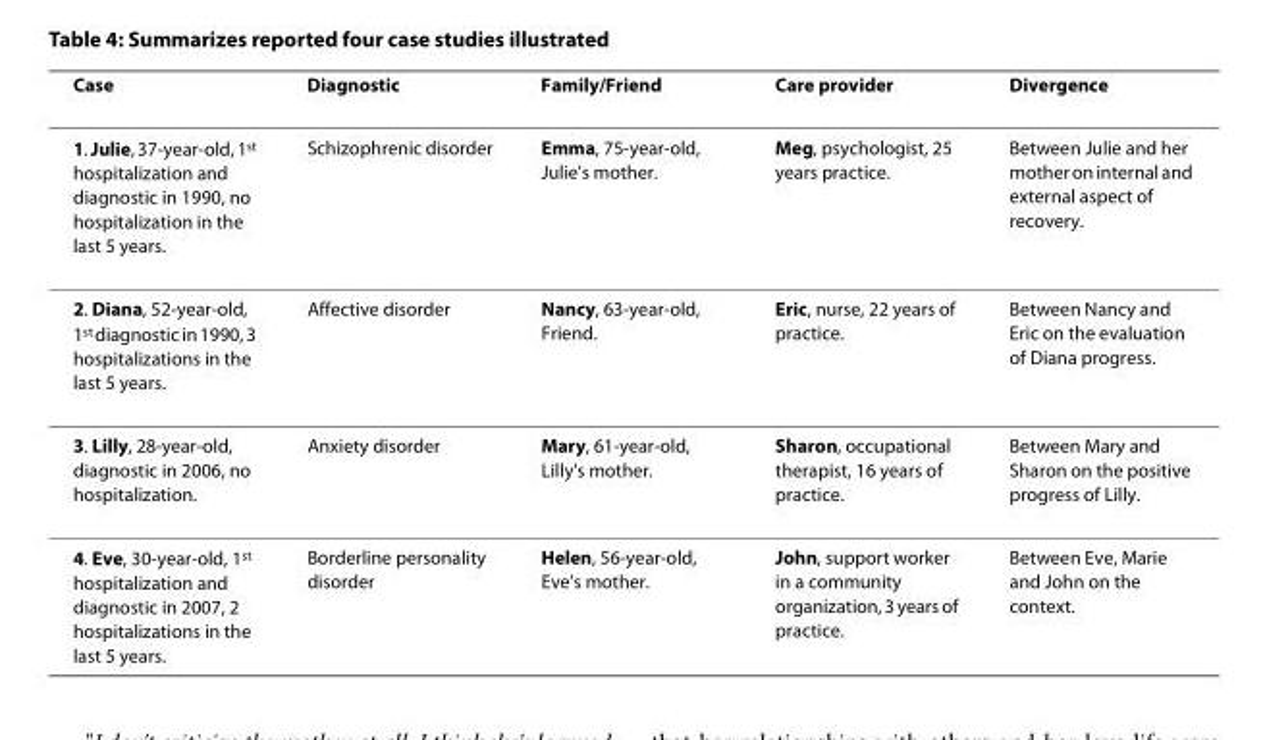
<table><thead><tr><td>Case</td><td>Diagnostic</td><td>Family/Friend</td><td>Care provider</td><td>Divergence</td></tr></thead><tbody><tr><td>1. Julie, 37-year-old, 1<sup>st</sup> hospitalization and diagnostic in 1990, no hospitalization in the last 5 years.</td><td>Schizophrenic disorder</td><td>Emma, 75-year-old, Julie&#x27;s mother.</td><td>Meg, psychologist, 25 years practice.</td><td>Between Julie and her mother on internal and external aspect of recovery.</td></tr><tr><td>2. Diana, 52-year-old, 1<sup>st</sup> diagnostic in 1990, 3 hospitalizations in the last 5 years.</td><td>Affective disorder</td><td>Nancy, 63-year-old, Friend.</td><td>Eric, nurse, 22 years of practice.</td><td>Between Nancy and Eric on the evaluation of Diana progress.</td></tr><tr><td>3. Lilly, 28-year-old, diagnostic in 2006, no hospitalization.</td><td>Anxiety disorder</td><td>Mary, 61-year-old, Lilly&#x27;s mother.</td><td>Sharon, occupational therapist, 16 years of practice.</td><td>Between Mary and Sharon on the positive progress of Lilly.</td></tr><tr><td>4. Eve, 30-year-old, 1<sup>st</sup> hospitalization and diagnostic in 2007, 2 hospitalizations in the last 5 years.</td><td>Borderline personality disorder</td><td>Helen, 56-year-old, Eve&#x27;s mother.</td><td>John, support worker in a community organization, 3 years of practice.</td><td>Between Eve, Marie and John on the context.</td></tr></tbody></table>